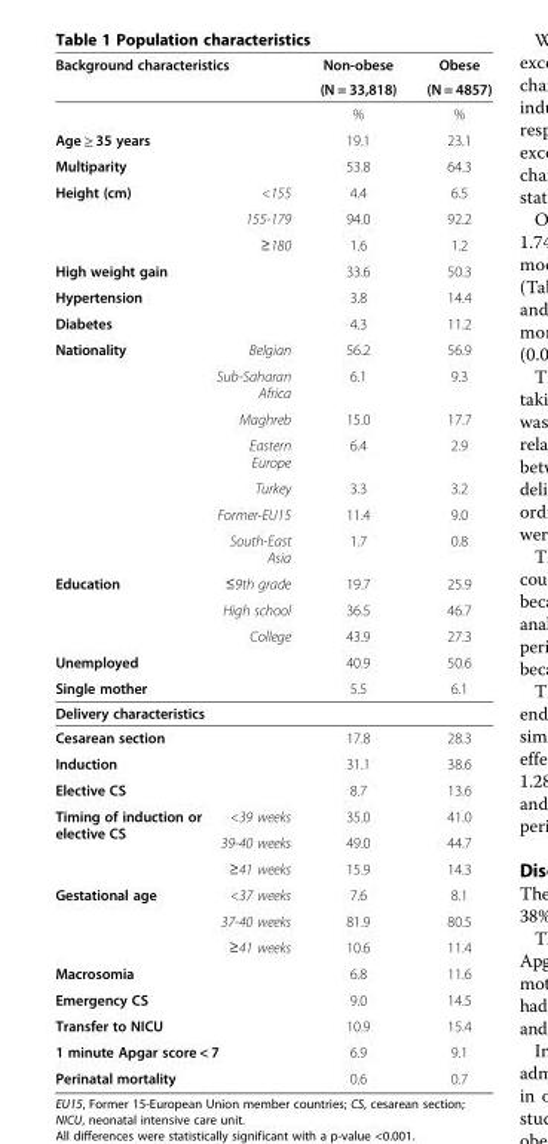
<table><thead><tr><td colspan="2">Background characteristics</td><td rowspan="2">Non-obese (N = 33,818)</td><td rowspan="2">Obese (N = 4857)</td></tr><tr><td></td><td></td></tr></thead><tbody><tr><td colspan="2"></td><td>%</td><td>%</td></tr><tr><td colspan="2">Age ≥ 35 years</td><td>19.1</td><td>23.1</td></tr><tr><td colspan="2">Multiparity</td><td>53.8</td><td>64.3</td></tr><tr><td rowspan="3">Height (cm)</td><td>&lt;155</td><td>4.4</td><td>6.5</td></tr><tr><td>155-179</td><td>94.0</td><td>92.2</td></tr><tr><td>≥180</td><td>1.6</td><td>1.2</td></tr><tr><td colspan="2">High weight gain</td><td>33.6</td><td>50.3</td></tr><tr><td colspan="2">Hypertension</td><td>3.8</td><td>14.4</td></tr><tr><td colspan="2">Diabetes</td><td>4.3</td><td>11.2</td></tr><tr><td rowspan="7">Nationality</td><td>Belgian</td><td>56.2</td><td>56.9</td></tr><tr><td>Sub-Saharan Africa</td><td>6.1</td><td>9.3</td></tr><tr><td>Maghreb</td><td>15.0</td><td>17.7</td></tr><tr><td>Eastern Europe</td><td>6.4</td><td>2.9</td></tr><tr><td>Turkey</td><td>3.3</td><td>3.2</td></tr><tr><td>Former-EU15</td><td>11.4</td><td>9.0</td></tr><tr><td>South-East Asia</td><td>1.7</td><td>0.8</td></tr><tr><td rowspan="3">Education</td><td>≤9th grade</td><td>19.7</td><td>25.9</td></tr><tr><td>High school</td><td>36.5</td><td>46.7</td></tr><tr><td>College</td><td>43.9</td><td>27.3</td></tr><tr><td colspan="2">Unemployed</td><td>40.9</td><td>50.6</td></tr><tr><td colspan="2">Single mother</td><td>5.5</td><td>6.1</td></tr><tr><td colspan="4">Delivery characteristics</td></tr><tr><td colspan="2">Cesarean section</td><td>17.8</td><td>28.3</td></tr><tr><td colspan="2">Induction</td><td>31.1</td><td>38.6</td></tr><tr><td colspan="2">Elective CS</td><td>8.7</td><td>13.6</td></tr><tr><td rowspan="3">Timing of induction or elective CS</td><td>&lt;39 weeks</td><td>35.0</td><td>41.0</td></tr><tr><td>39-40 weeks</td><td>49.0</td><td>44.7</td></tr><tr><td>≥41 weeks</td><td>15.9</td><td>14.3</td></tr><tr><td rowspan="3">Gestational age</td><td>&lt;37 weeks</td><td>7.6</td><td>8.1</td></tr><tr><td>37-40 weeks</td><td>81.9</td><td>80.5</td></tr><tr><td>≥41 weeks</td><td>10.6</td><td>11.4</td></tr><tr><td colspan="2">Macrosomia</td><td>6.8</td><td>11.6</td></tr><tr><td colspan="2">Emergency CS</td><td>9.0</td><td>14.5</td></tr><tr><td colspan="2">Transfer to NICU</td><td>10.9</td><td>15.4</td></tr><tr><td colspan="2">1 minute Apgar score &lt; 7</td><td>6.9</td><td>9.1</td></tr><tr><td colspan="2">Perinatal mortality</td><td>0.6</td><td>0.7</td></tr></tbody></table>